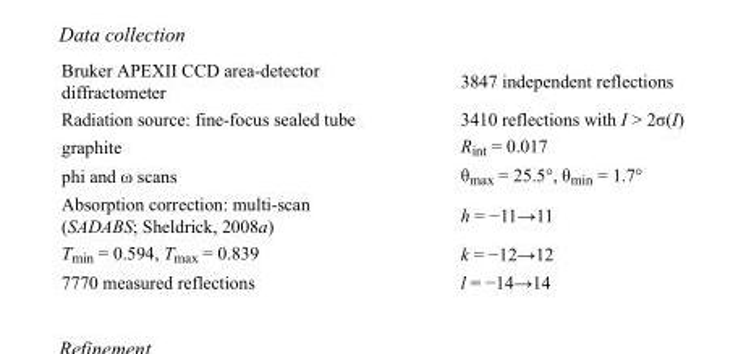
<table><tbody><tr><td>Bruker APEXII CCD area-detector diffractometer</td><td>3847 independent reflections</td></tr><tr><td>Radiation source: fine-focus sealed tube</td><td>3410 reflections with I &gt; 2σ(I)</td></tr><tr><td>graphite</td><td>R<sub>int</sub> = 0.017</td></tr><tr><td>phi and ω scans</td><td>θ<sub>max</sub> = 25.5°, θ<sub>min</sub> = 1.7°</td></tr><tr><td>Absorption correction: multi-scan (SADABS; Sheldrick, 2008a)</td><td>h = −11→11</td></tr><tr><td>T<sub>min</sub> = 0.594, T<sub>max</sub> = 0.839</td><td>k = −12→12</td></tr><tr><td>7770 measured reflections</td><td>l = −14→14</td></tr></tbody></table>